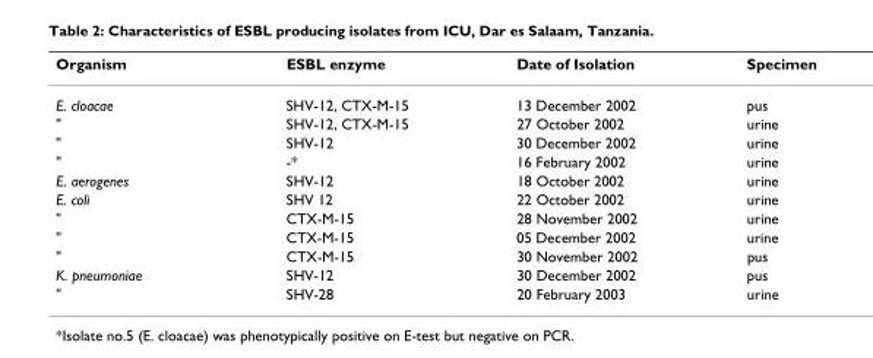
<table><thead><tr><td>Organism</td><td>ESBL enzyme</td><td>Date of Isolation</td><td>Specimen</td></tr></thead><tbody><tr><td>E. cloacae</td><td>SHV-12, CTX-M-15</td><td>13 December 2002</td><td>pus</td></tr><tr><td>&quot;</td><td>SHV-12, CTX-M-15</td><td>27 October 2002</td><td>urine</td></tr><tr><td>&quot;</td><td>SHV-12</td><td>30 December 2002</td><td>urine</td></tr><tr><td>&quot;</td><td>-*</td><td>16 February 2002</td><td>urine</td></tr><tr><td>E. aerogenes</td><td>SHV-12</td><td>18 October 2002</td><td>urine</td></tr><tr><td>E. coli</td><td>SHV 12</td><td>22 October 2002</td><td>urine</td></tr><tr><td>&quot;</td><td>CTX-M-15</td><td>28 November 2002</td><td>urine</td></tr><tr><td>&quot;</td><td>CTX-M-15</td><td>05 December 2002</td><td>urine</td></tr><tr><td>&quot;</td><td>CTX-M-15</td><td>30 November 2002</td><td>pus</td></tr><tr><td>K. pneumoniae</td><td>SHV-12</td><td>30 December 2002</td><td>pus</td></tr><tr><td>&quot;</td><td>SHV-28</td><td>20 February 2003</td><td>urine</td></tr></tbody></table>